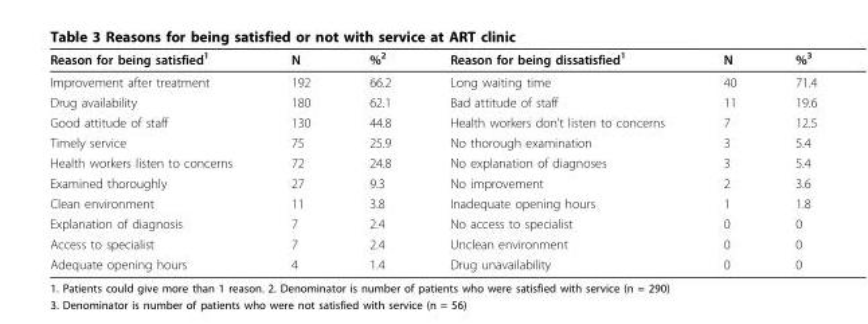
<table><thead><tr><td>Reason for being satisfied<sup>1</sup></td><td>N</td><td>%<sup>2</sup></td><td>Reason for being dissatisfied<sup>1</sup></td><td>N</td><td>%<sup>3</sup></td></tr></thead><tbody><tr><td>Improvement after treatment</td><td>192</td><td>66.2</td><td>Long waiting time</td><td>40</td><td>71.4</td></tr><tr><td>Drug availability</td><td>180</td><td>62.1</td><td>Bad attitude of staff</td><td>11</td><td>19.6</td></tr><tr><td>Good attitude of staff</td><td>130</td><td>44.8</td><td>Health workers don’t listen to concerns</td><td>7</td><td>12.5</td></tr><tr><td>Timely service</td><td>75</td><td>25.9</td><td>No thorough examination</td><td>3</td><td>5.4</td></tr><tr><td>Health workers listen to concerns</td><td>72</td><td>24.8</td><td>No explanation of diagnoses</td><td>3</td><td>5.4</td></tr><tr><td>Examined thoroughly</td><td>27</td><td>9.3</td><td>No improvement</td><td>2</td><td>3.6</td></tr><tr><td>Clean environment</td><td>11</td><td>3.8</td><td>Inadequate opening hours</td><td>1</td><td>1.8</td></tr><tr><td>Explanation of diagnosis</td><td>7</td><td>2.4</td><td>No access to specialist</td><td>0</td><td>0</td></tr><tr><td>Access to specialist</td><td>7</td><td>2.4</td><td>Unclean environment</td><td>0</td><td>0</td></tr><tr><td>Adequate opening hours</td><td>4</td><td>1.4</td><td>Drug unavailability</td><td>0</td><td>0</td></tr></tbody></table>